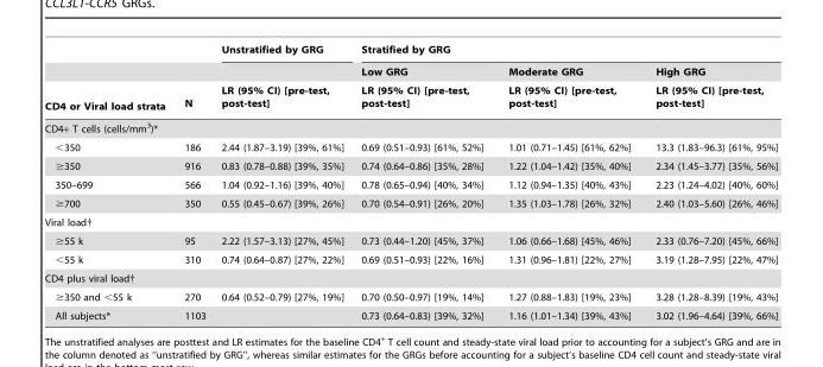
<table><thead><tr><td rowspan="3">CD4 or Viral load strata</td><td rowspan="3">N</td><td rowspan="3">Unstratified by GRG LR (95% CI) [pre-test, post-test]</td><td colspan="3">Stratified by GRG</td></tr><tr><td rowspan="2">Low GRG LR (95% CI) [pre-test, post-test]</td><td rowspan="2">Moderate GRG LR (95% CI) [pre-test, post-test]</td><td rowspan="2">High GRG LR (95% CI) [pre-test, post-test]</td></tr><tr></tr></thead><tbody><tr><td colspan="6">CD4+ T cells (cells/mm<sup>3</sup>)*</td></tr><tr><td>&lt;350</td><td>186</td><td>2.44 (1.87–3.19) [39%, 61%]</td><td>0.69 (0.51–0.93) [61%, 52%]</td><td>1.01 (0.71–1.45) [61%, 62%]</td><td>13.3 (1.83–96.3) [61%, 95%]</td></tr><tr><td>≥350</td><td>916</td><td>0.83 (0.78–0.88) [39%, 35%]</td><td>0.74 (0.64–0.86) [35%, 28%]</td><td>1.22 (1.04–1.42) [35%, 40%]</td><td>2.34 (1.45–3.77) [35%, 56%]</td></tr><tr><td>350–699</td><td>566</td><td>1.04 (0.92–1.16) [39%, 40%]</td><td>0.78 (0.65–0.94) [40%, 34%]</td><td>1.12 (0.94–1.35) [40%, 43%]</td><td>2.23 (1.24–4.02) [40%, 60%]</td></tr><tr><td>≥700</td><td>350</td><td>0.55 (0.45–0.67) [39%, 26%]</td><td>0.70 (0.54–0.91) [26%, 20%]</td><td>1.35 (1.03–1.78) [26%, 32%]</td><td>2.40 (1.03–5.60) [26%, 46%]</td></tr><tr><td colspan="6">Viral load†</td></tr><tr><td>≥55 k</td><td>95</td><td>2.22 (1.57–3.13) [27%, 45%]</td><td>0.73 (0.44–1.20) [45%, 37%]</td><td>1.06 (0.66–1.68) [45%, 46%]</td><td>2.33 (0.76–7.20) [45%, 66%]</td></tr><tr><td>&lt;55 k</td><td>310</td><td>0.74 (0.64–0.87) [27%, 22%]</td><td>0.69 (0.51–0.93) [22%, 16%]</td><td>1.31 (0.96–1.81) [22%, 27%]</td><td>3.19 (1.28–7.95) [22%, 47%]</td></tr><tr><td colspan="6">CD4 plus viral load†</td></tr><tr><td>≥350 and &lt;55 k</td><td>270</td><td>0.64 (0.52–0.79) [27%, 19%]</td><td>0.70 (0.50–0.97) [19%, 14%]</td><td>1.27 (0.88–1.83) [19%, 23%]</td><td>3.28 (1.28–8.39) [19%, 43%]</td></tr><tr><td>All subjects*</td><td>1103</td><td></td><td>0.73 (0.64–0.83) [39%, 32%]</td><td>1.16 (1.01–1.34) [39%, 43%]</td><td>3.02 (1.96–4.64) [39%, 66%]</td></tr></tbody></table>